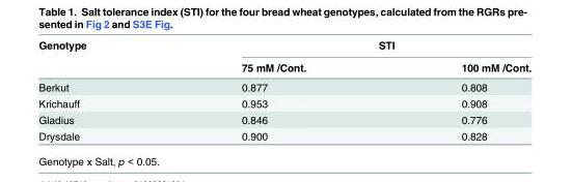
<table><thead><tr><td rowspan="2">Genotype</td><td colspan="2">STI</td></tr><tr><td>75 mM /Cont.</td><td>100 mM /Cont.</td></tr></thead><tbody><tr><td>Berkut</td><td>0.877</td><td>0.808</td></tr><tr><td>Krichauff</td><td>0.953</td><td>0.908</td></tr><tr><td>Gladius</td><td>0.846</td><td>0.776</td></tr><tr><td>Drysdale</td><td>0.900</td><td>0.828</td></tr></tbody></table>